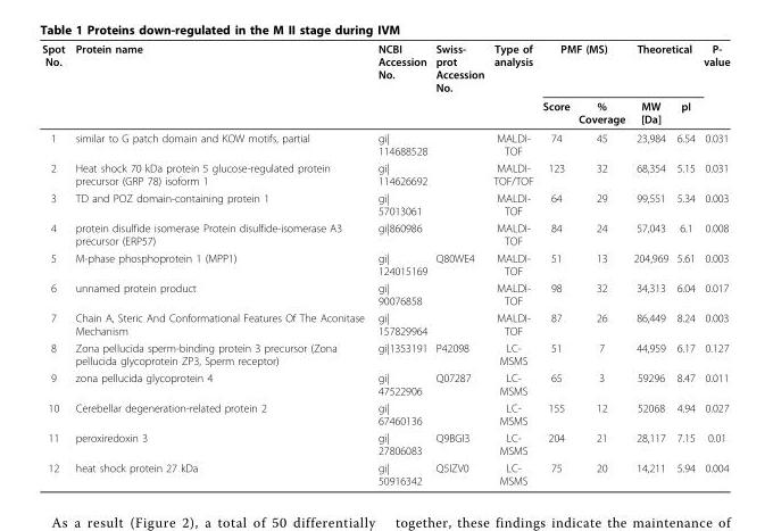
<table><thead><tr><td rowspan="2">Spot No.</td><td rowspan="2">Protein name</td><td rowspan="2">NCBI Accession No.</td><td rowspan="2">Swiss- prot Accession No.</td><td rowspan="2">Type of analysis</td><td colspan="2">PMF (MS)</td><td colspan="2">Theoretical</td><td rowspan="2">P- value</td></tr><tr><td>Score</td><td>% Coverage</td><td>MW [Da]</td><td>pI</td></tr></thead><tbody><tr><td>1</td><td>similar to G patch domain and KOW motifs, partial</td><td>gi| 114688528</td><td></td><td>MALDI- TOF</td><td>74</td><td>45</td><td>23,984</td><td>6.54</td><td>0.031</td></tr><tr><td>2</td><td>Heat shock 70 kDa protein 5 glucose-regulated protein precursor (GRP 78) isoform 1</td><td>gi| 114626692</td><td></td><td>MALDI- TOF/TOF</td><td>123</td><td>32</td><td>68,354</td><td>5.15</td><td>0.031</td></tr><tr><td>3</td><td>TD and POZ domain-containing protein 1</td><td>gi| 57013061</td><td></td><td>MALDI- TOF</td><td>64</td><td>29</td><td>99,551</td><td>5.34</td><td>0.003</td></tr><tr><td>4</td><td>protein disulfide isomerase Protein disulfide-isomerase A3 precursor (ERP57)</td><td>gi|860986</td><td></td><td>MALDI- TOF</td><td>84</td><td>24</td><td>57,043</td><td>6.1</td><td>0.008</td></tr><tr><td>5</td><td>M-phase phosphoprotein 1 (MPP1)</td><td>gi| 124015169</td><td>Q80WE4</td><td>MALDI- TOF</td><td>51</td><td>13</td><td>204,969</td><td>5.61</td><td>0.003</td></tr><tr><td>6</td><td>unnamed protein product</td><td>gi| 90076858</td><td></td><td>MALDI- TOF</td><td>98</td><td>32</td><td>34,313</td><td>6.04</td><td>0.017</td></tr><tr><td>7</td><td>Chain A, Steric And Conformational Features Of The Aconitase Mechanism</td><td>gi| 157829964</td><td></td><td>MALDI- TOF</td><td>87</td><td>26</td><td>86,449</td><td>8.24</td><td>0.003</td></tr><tr><td>8</td><td>Zona pellucida sperm-binding protein 3 precursor (Zona pellucida glycoprotein ZP3, Sperm receptor)</td><td>gi|1353191</td><td>P42098</td><td>LC- MSMS</td><td>51</td><td>7</td><td>44,959</td><td>6.17</td><td>0.127</td></tr><tr><td>9</td><td>zona pellucida glycoprotein 4</td><td>gi| 47522906</td><td>Q07287</td><td>LC- MSMS</td><td>65</td><td>3</td><td>59296</td><td>8.47</td><td>0.011</td></tr><tr><td>10</td><td>Cerebellar degeneration-related protein 2</td><td>gi| 67460136</td><td></td><td>LC- MSMS</td><td>155</td><td>12</td><td>52068</td><td>4.94</td><td>0.027</td></tr><tr><td>11</td><td>peroxiredoxin 3</td><td>gi| 27806083</td><td>Q9BGI3</td><td>LC- MSMS</td><td>204</td><td>21</td><td>28,117</td><td>7.15</td><td>0.01</td></tr><tr><td>12</td><td>heat shock protein 27 kDa</td><td>gi| 50916342</td><td>Q5IZV0</td><td>LC- MSMS</td><td>75</td><td>20</td><td>14,211</td><td>5.94</td><td>0.004</td></tr></tbody></table>